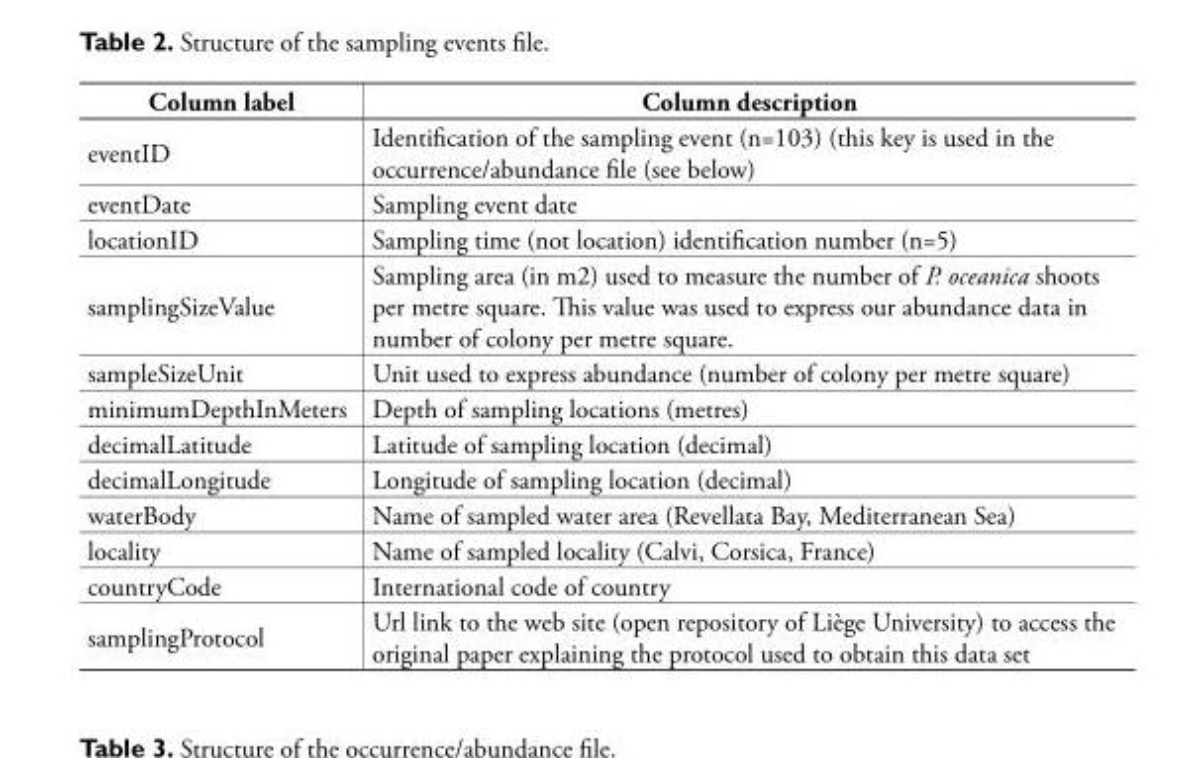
<table><thead><tr><td>Column label</td><td>Column description</td></tr></thead><tbody><tr><td>eventID</td><td>Identification of the sampling event (n=103) (this key is used in the occurrence/abundance file (see below)</td></tr><tr><td>eventDate</td><td>Sampling event date</td></tr><tr><td>locationID</td><td>Sampling time (not location) identification number (n=5)</td></tr><tr><td>samplingSizeValue</td><td>Sampling area (in m2) used to measure the number of P. oceanica shoots per metre square. This value was used to express our abundance data in number of colony per metre square.</td></tr><tr><td>sampleSizeUnit</td><td>Unit used to express abundance (number of colony per metre square)</td></tr><tr><td>minimumDepthInMeters</td><td>Depth of sampling locations (metres)</td></tr><tr><td>decimalLatitude</td><td>Latitude of sampling location (decimal)</td></tr><tr><td>decimalLongitude</td><td>Longitude of sampling location (decimal)</td></tr><tr><td>waterBody</td><td>Name of sampled water area (Revellata Bay, Mediterranean Sea)</td></tr><tr><td>locality</td><td>Name of sampled locality (Calvi, Corsica, France)</td></tr><tr><td>countryCode</td><td>International code of country</td></tr><tr><td>samplingProtocol</td><td>Url link to the web site (open repository of Liège University) to access the original paper explaining the protocol used to obtain this data set</td></tr></tbody></table>